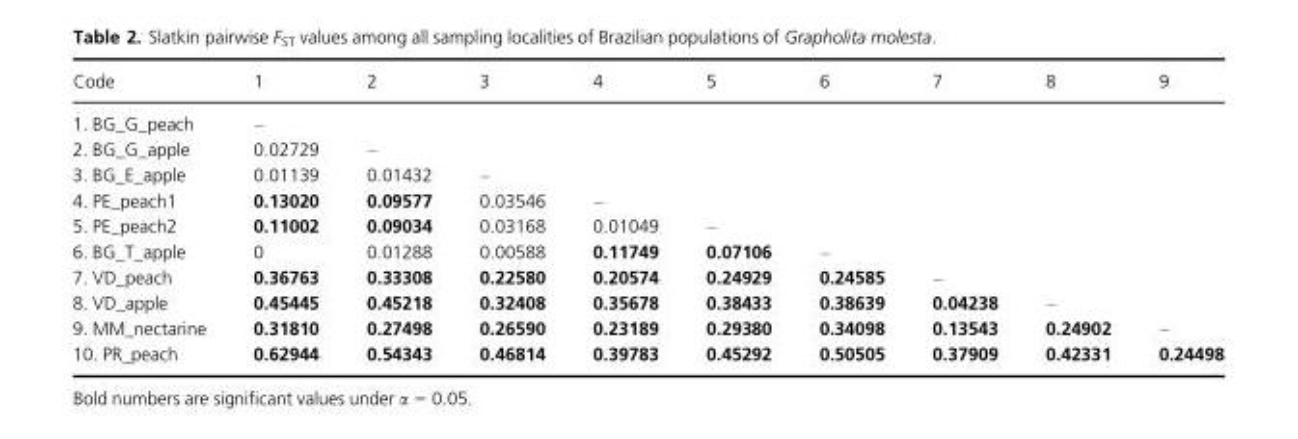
<table><thead><tr><td>Code</td><td>1</td><td>2</td><td>3</td><td>4</td><td>5</td><td>6</td><td>7</td><td>8</td><td>9</td></tr></thead><tbody><tr><td>1. BG_G_peach</td><td>–</td><td></td><td></td><td></td><td></td><td></td><td></td><td></td><td></td></tr><tr><td>2. BG_G_apple</td><td>0.02729</td><td>–</td><td></td><td></td><td></td><td></td><td></td><td></td><td></td></tr><tr><td>3. BG_E_apple</td><td>0.01139</td><td>0.01432</td><td>–</td><td></td><td></td><td></td><td></td><td></td><td></td></tr><tr><td>4. PE_peach1</td><td>0.13020</td><td>0.09577</td><td>0.03546</td><td>–</td><td></td><td></td><td></td><td></td><td></td></tr><tr><td>5. PE_peach2</td><td>0.11002</td><td>0.09034</td><td>0.03168</td><td>0.01049</td><td>–</td><td></td><td></td><td></td><td></td></tr><tr><td>6. BG_T_apple</td><td>0</td><td>0.01288</td><td>0.00588</td><td>0.11749</td><td>0.07106</td><td>–</td><td></td><td></td><td></td></tr><tr><td>7. VD_peach</td><td>0.36763</td><td>0.33308</td><td>0.22580</td><td>0.20574</td><td>0.24929</td><td>0.24585</td><td>–</td><td></td><td></td></tr><tr><td>8. VD_apple</td><td>0.45445</td><td>0.45218</td><td>0.32408</td><td>0.35678</td><td>0.38433</td><td>0.38639</td><td>0.04238</td><td>–</td><td></td></tr><tr><td>9. MM_nectarine</td><td>0.31810</td><td>0.27498</td><td>0.26590</td><td>0.23189</td><td>0.29380</td><td>0.34098</td><td>0.13543</td><td>0.24902</td><td>–</td></tr><tr><td>10. PR_peach</td><td>0.62944</td><td>0.54343</td><td>0.46814</td><td>0.39783</td><td>0.45292</td><td>0.50505</td><td>0.37909</td><td>0.42331</td><td>0.24498</td></tr></tbody></table>